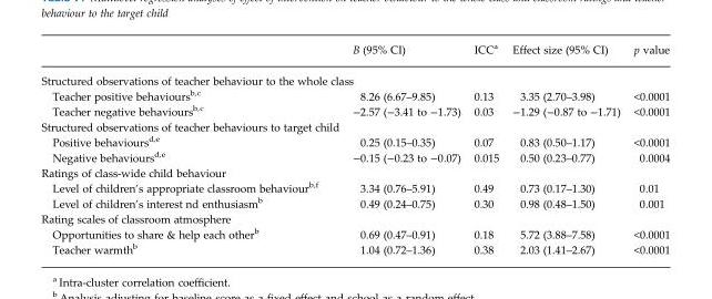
<table><thead><tr><td></td><td>B (95% CI)</td><td>ICC<sup>a</sup></td><td>Effect size (95% CI)</td><td>p value</td></tr></thead><tbody><tr><td colspan="5">Structured observations of teacher behaviour to the whole class</td></tr><tr><td>Teacher positive behaviours<sup>b,c</sup></td><td>8.26 (6.67–9.85)</td><td>0.13</td><td>3.35 (2.70–3.98)</td><td>&lt;0.0001</td></tr><tr><td>Teacher negative behaviours<sup>b,c</sup></td><td>−2.57 (−3.41 to −1.73)</td><td>0.03</td><td>−1.29 (−0.87 to −1.71)</td><td>&lt;0.0001</td></tr><tr><td colspan="5">Structured observations of teacher behaviours to target child</td></tr><tr><td>Positive behaviours<sup>d,e</sup></td><td>0.25 (0.15–0.35)</td><td>0.07</td><td>0.83 (0.50–1.17)</td><td>&lt;0.0001</td></tr><tr><td>Negative behaviours<sup>d,e</sup></td><td>−0.15 (−0.23 to −0.07)</td><td>0.015</td><td>0.50 (0.23–0.77)</td><td>0.0004</td></tr><tr><td colspan="5">Ratings of class-wide child behaviour</td></tr><tr><td>Level of children’s appropriate classroom behaviour<sup>b,f</sup></td><td>3.34 (0.76–5.91)</td><td>0.49</td><td>0.73 (0.17–1.30)</td><td>0.01</td></tr><tr><td>Level of children’s interest nd enthusiasm<sup>b</sup></td><td>0.49 (0.24–0.75)</td><td>0.30</td><td>0.98 (0.48–1.50)</td><td>0.001</td></tr><tr><td colspan="5">Rating scales of classroom atmosphere</td></tr><tr><td>Opportunities to share &amp; help each other<sup>b</sup></td><td>0.69 (0.47–0.91)</td><td>0.18</td><td>5.72 (3.88–7.58)</td><td>&lt;0.0001</td></tr><tr><td>Teacher warmth<sup>b</sup></td><td>1.04 (0.72–1.36)</td><td>0.38</td><td>2.03 (1.41–2.67)</td><td>&lt;0.0001</td></tr></tbody></table>